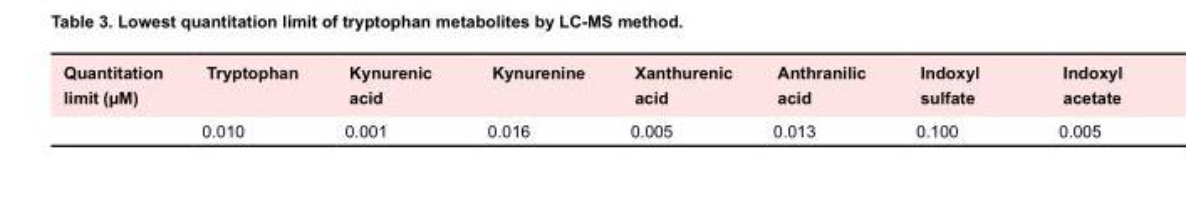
<table><thead><tr><td>Quantitation limit (µM)</td><td>Tryptophan</td><td>Kynurenic acid</td><td>Kynurenine</td><td>Xanthurenic acid</td><td>Anthranilic acid</td><td>Indoxyl sulfate</td><td>Indoxyl acetate</td></tr></thead><tbody><tr><td></td><td>0.010</td><td>0.001</td><td>0.016</td><td>0.005</td><td>0.013</td><td>0.100</td><td>0.005</td></tr></tbody></table>